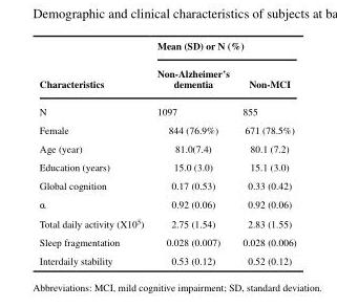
<table><thead><tr><td rowspan="2">Characteristics</td><td colspan="2">Mean (SD) or N (%)</td></tr><tr><td>Non-Alzheimer’s dementia</td><td>Non-MCI</td></tr></thead><tbody><tr><td>N</td><td>1097</td><td>855</td></tr><tr><td>Female</td><td>844 (76.9%)</td><td>671 (78.5%)</td></tr><tr><td>Age (year)</td><td>81.0(7.4)</td><td>80.1 (7.2)</td></tr><tr><td>Education (years)</td><td>15.0 (3.0)</td><td>15.1 (3.0)</td></tr><tr><td>Global cognition</td><td>0.17 (0.53)</td><td>0.33 (0.42)</td></tr><tr><td>α</td><td>0.92 (0.06)</td><td>0.92 (0.06)</td></tr><tr><td>Total daily activity (X10<sup>5</sup>)</td><td>2.75 (1.54)</td><td>2.83 (1.55)</td></tr><tr><td>Sleep fragmentation</td><td>0.028 (0.007)</td><td>0.028 (0.006)</td></tr><tr><td>Interdaily stability</td><td>0.53 (0.12)</td><td>0.52 (0.12)</td></tr></tbody></table>